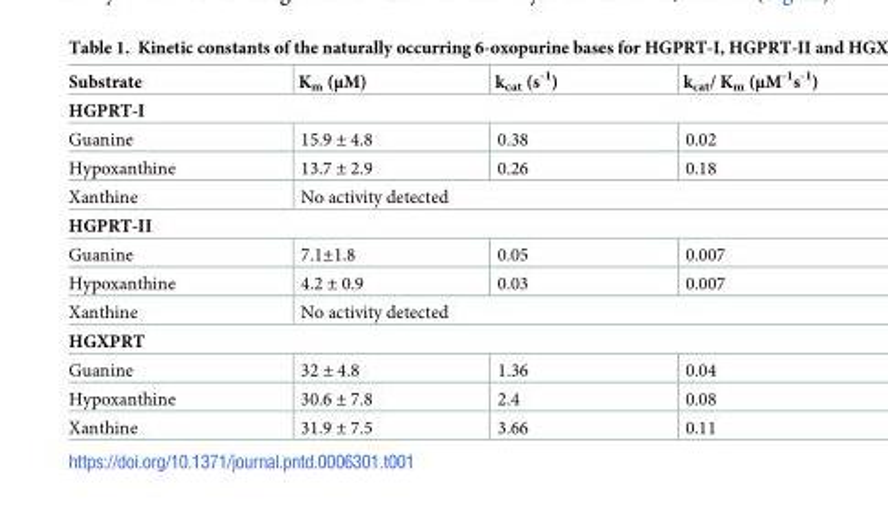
<table><thead><tr><td>Substrate</td><td>K<sub>m</sub> (μM)</td><td>k<sub>cat</sub> (s<sup>-1</sup>)</td><td>k<sub>cat</sub>/ K<sub>m</sub> (μM<sup>-1</sup>s<sup>-1</sup>)</td></tr></thead><tbody><tr><td colspan="4">HGPRT-I</td></tr><tr><td>Guanine</td><td>15.9 ± 4.8</td><td>0.38</td><td>0.02</td></tr><tr><td>Hypoxanthine</td><td>13.7 ± 2.9</td><td>0.26</td><td>0.18</td></tr><tr><td>Xanthine</td><td colspan="3">No activity detected</td></tr><tr><td colspan="4">HGPRT-II</td></tr><tr><td>Guanine</td><td>7.1±1.8</td><td>0.05</td><td>0.007</td></tr><tr><td>Hypoxanthine</td><td>4.2 ± 0.9</td><td>0.03</td><td>0.007</td></tr><tr><td>Xanthine</td><td colspan="3">No activity detected</td></tr><tr><td colspan="4">HGXPRT</td></tr><tr><td>Guanine</td><td>32 ± 4.8</td><td>1.36</td><td>0.04</td></tr><tr><td>Hypoxanthine</td><td>30.6 ± 7.8</td><td>2.4</td><td>0.08</td></tr><tr><td>Xanthine</td><td>31.9 ± 7.5</td><td>3.66</td><td>0.11</td></tr></tbody></table>